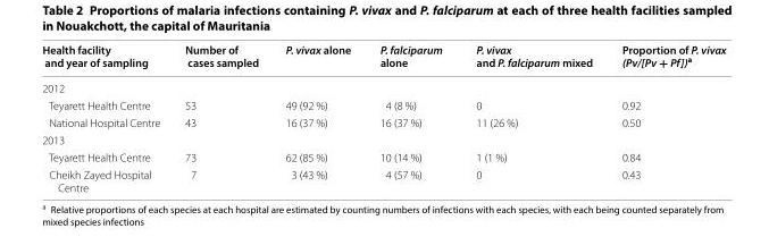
<table><thead><tr><td>Health facility and year of sampling</td><td>Number of cases sampled</td><td>P. vivax alone</td><td>P. falciparum alone</td><td>P. vivax and P. falciparum mixed</td><td>Proportion of P. vivax (Pv/[Pv + Pf])<sup>a</sup></td></tr></thead><tbody><tr><td colspan="6">2012</td></tr><tr><td>Teyarett Health Centre</td><td>53</td><td>49 (92 %)</td><td>4 (8 %)</td><td>0</td><td>0.92</td></tr><tr><td>National Hospital Centre</td><td>43</td><td>16 (37 %)</td><td>16 (37 %)</td><td>11 (26 %)</td><td>0.50</td></tr><tr><td colspan="6">2013</td></tr><tr><td>Teyarett Health Centre</td><td>73</td><td>62 (85 %)</td><td>10 (14 %)</td><td>1 (1 %)</td><td>0.84</td></tr><tr><td>Cheikh Zayed Hospital Centre</td><td>7</td><td>3 (43 %)</td><td>4 (57 %)</td><td>0</td><td>0.43</td></tr></tbody></table>